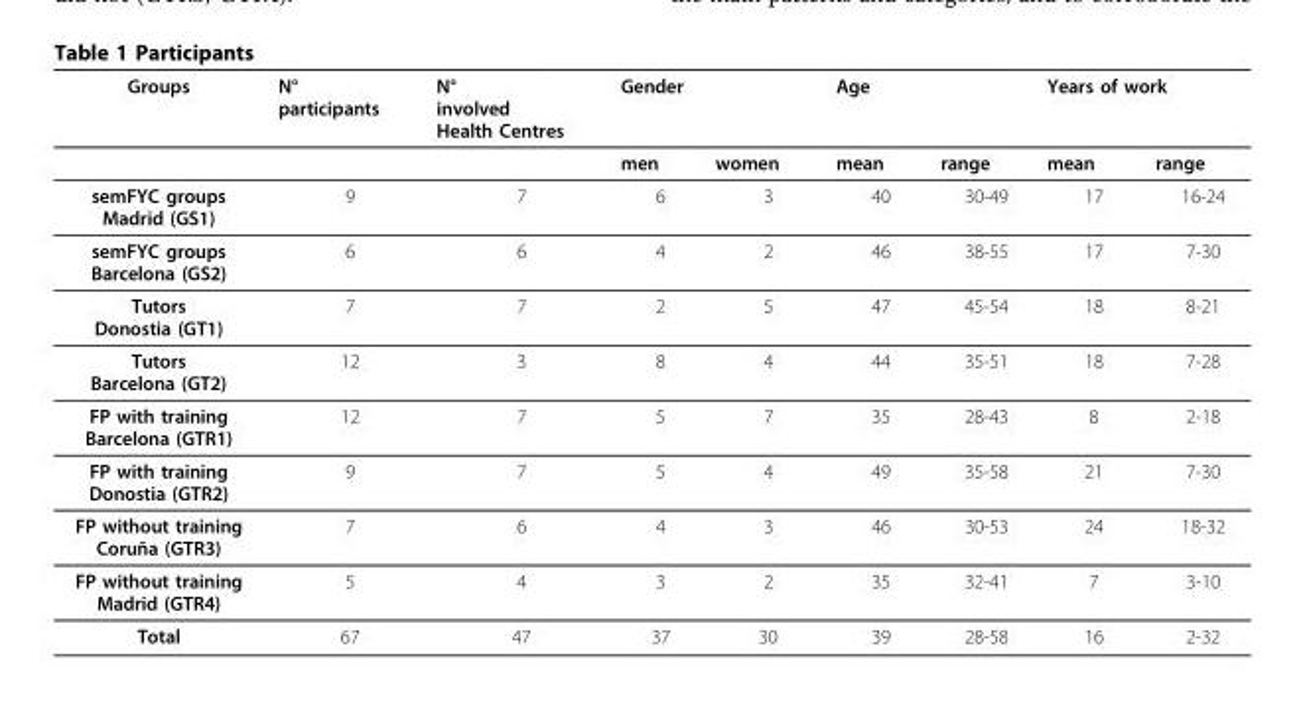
<table><thead><tr><td rowspan="2">Groups</td><td rowspan="2">N° participants</td><td rowspan="2">N° involved Health Centres</td><td colspan="2">Gender</td><td colspan="2">Age</td><td colspan="2">Years of work</td></tr><tr><td>men</td><td>women</td><td>mean</td><td>range</td><td>mean</td><td>range</td></tr></thead><tbody><tr><td>semFYC groups Madrid (GS1)</td><td>9</td><td>7</td><td>6</td><td>3</td><td>40</td><td>30-49</td><td>17</td><td>16-24</td></tr><tr><td>semFYC groups Barcelona (GS2)</td><td>6</td><td>6</td><td>4</td><td>2</td><td>46</td><td>38-55</td><td>17</td><td>7-30</td></tr><tr><td>Tutors Donostia (GT1)</td><td>7</td><td>7</td><td>2</td><td>5</td><td>47</td><td>45-54</td><td>18</td><td>8-21</td></tr><tr><td>Tutors Barcelona (GT2)</td><td>12</td><td>3</td><td>8</td><td>4</td><td>44</td><td>35-51</td><td>18</td><td>7-28</td></tr><tr><td>FP with training Barcelona (GTR1)</td><td>12</td><td>7</td><td>5</td><td>7</td><td>35</td><td>28-43</td><td>8</td><td>2-18</td></tr><tr><td>FP with training Donostia (GTR2)</td><td>9</td><td>7</td><td>5</td><td>4</td><td>49</td><td>35-58</td><td>21</td><td>7-30</td></tr><tr><td>FP without training Coruña (GTR3)</td><td>7</td><td>6</td><td>4</td><td>3</td><td>46</td><td>30-53</td><td>24</td><td>18-32</td></tr><tr><td>FP without training Madrid (GTR4)</td><td>5</td><td>4</td><td>3</td><td>2</td><td>35</td><td>32-41</td><td>7</td><td>3-10</td></tr><tr><td>Total</td><td>67</td><td>47</td><td>37</td><td>30</td><td>39</td><td>28-58</td><td>16</td><td>2-32</td></tr></tbody></table>